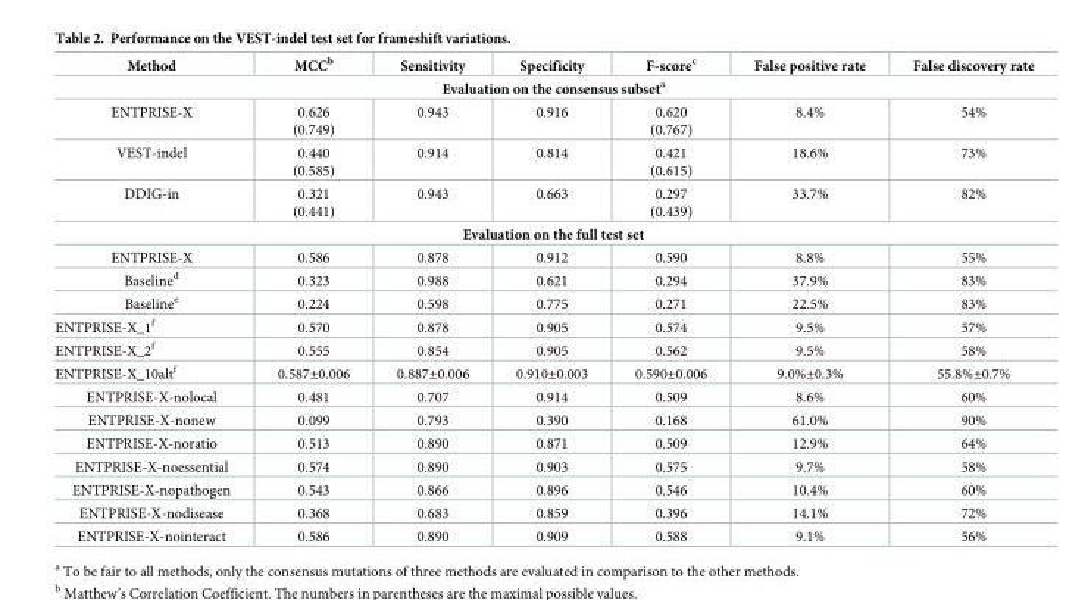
<table><thead><tr><td>Method</td><td>MCC<sup>b</sup></td><td>Sensitivity</td><td>Specificity</td><td>F-score<sup>c</sup></td><td>False positive rate</td><td>False discovery rate</td></tr></thead><tbody><tr><td colspan="7">Evaluation on the consensus subset<sup>a</sup></td></tr><tr><td>ENTPRISE-X</td><td>0.626 (0.749)</td><td>0.943</td><td>0.916</td><td>0.620 (0.767)</td><td>8.4%</td><td>54%</td></tr><tr><td>VEST-indel</td><td>0.440 (0.585)</td><td>0.914</td><td>0.814</td><td>0.421 (0.615)</td><td>18.6%</td><td>73%</td></tr><tr><td>DDIG-in</td><td>0.321 (0.441)</td><td>0.943</td><td>0.663</td><td>0.297 (0.439)</td><td>33.7%</td><td>82%</td></tr><tr><td colspan="7">Evaluation on the full test set</td></tr><tr><td>ENTPRISE-X</td><td>0.586</td><td>0.878</td><td>0.912</td><td>0.590</td><td>8.8%</td><td>55%</td></tr><tr><td>Baseline<sup>d</sup></td><td>0.323</td><td>0.988</td><td>0.621</td><td>0.294</td><td>37.9%</td><td>83%</td></tr><tr><td>Baseline<sup>e</sup></td><td>0.224</td><td>0.598</td><td>0.775</td><td>0.271</td><td>22.5%</td><td>83%</td></tr><tr><td>ENTPRISE-X_1<sup>f</sup></td><td>0.570</td><td>0.878</td><td>0.905</td><td>0.574</td><td>9.5%</td><td>57%</td></tr><tr><td>ENTPRISE-X_2<sup>f</sup></td><td>0.555</td><td>0.854</td><td>0.905</td><td>0.562</td><td>9.5%</td><td>58%</td></tr><tr><td>ENTPRISE-X_10alt<sup>f</sup></td><td>0.587±0.006</td><td>0.887±0.006</td><td>0.910±0.003</td><td>0.590±0.006</td><td>9.0%±0.3%</td><td>55.8%±0.7%</td></tr><tr><td>ENTPRISE-X-nolocal</td><td>0.481</td><td>0.707</td><td>0.914</td><td>0.509</td><td>8.6%</td><td>60%</td></tr><tr><td>ENTPRISE-X-nonew</td><td>0.099</td><td>0.793</td><td>0.390</td><td>0.168</td><td>61.0%</td><td>90%</td></tr><tr><td>ENTPRISE-X-noratio</td><td>0.513</td><td>0.890</td><td>0.871</td><td>0.509</td><td>12.9%</td><td>64%</td></tr><tr><td>ENTPRISE-X-noessential</td><td>0.574</td><td>0.890</td><td>0.903</td><td>0.575</td><td>9.7%</td><td>58%</td></tr><tr><td>ENTPRISE-X-nopathogen</td><td>0.543</td><td>0.866</td><td>0.896</td><td>0.546</td><td>10.4%</td><td>60%</td></tr><tr><td>ENTPRISE-X-nodisease</td><td>0.368</td><td>0.683</td><td>0.859</td><td>0.396</td><td>14.1%</td><td>72%</td></tr><tr><td>ENTPRISE-X-nointeract</td><td>0.586</td><td>0.890</td><td>0.909</td><td>0.588</td><td>9.1%</td><td>56%</td></tr></tbody></table>